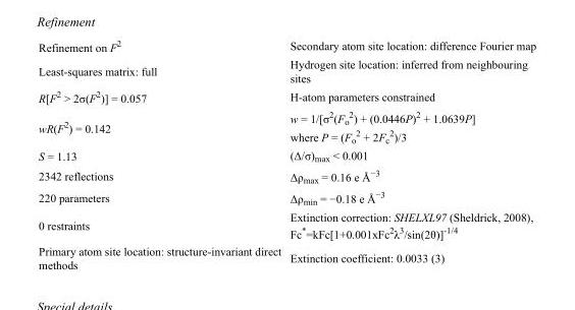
<table><tbody><tr><td>Refinement on F<sup>2</sup></td><td>Secondary atom site location: difference Fourier map</td></tr><tr><td>Least-squares matrix: full</td><td>Hydrogen site location: inferred from neighbouring sites</td></tr><tr><td>R[F<sup>2</sup> &gt; 2σ(F<sup>2</sup>)] = 0.057</td><td>H-atom parameters constrained</td></tr><tr><td>wR(F<sup>2</sup>) = 0.142</td><td>w = 1/[σ<sup>2</sup>(F<sub>o</sub> <sup>2</sup>) + (0.0446P)<sup>2</sup> + 1.0639P] where P = (F<sub>o</sub> <sup>2</sup> + 2F<sub>c</sub> <sup>2</sup>)/3</td></tr><tr><td>S = 1.13</td><td>(Δ/σ)<sub>max</sub> &lt; 0.001</td></tr><tr><td>2342 reflections</td><td>Δρ<sub>max</sub> = 0.16 e Å<sup>−3</sup></td></tr><tr><td>220 parameters</td><td>Δρ<sub>min</sub> = −0.18 e Å<sup>−3</sup></td></tr><tr><td>0 restraints</td><td>Extinction correction: SHELXL97 (Sheldrick, 2008), Fc*=kFc[1+0.001xFc<sup>2</sup>λ<sup>3</sup>/sin(2θ)]<sup>-1/4</sup></td></tr><tr><td>Primary atom site location: structure-invariant direct methods</td><td>Extinction coefficient: 0.0033 (3)</td></tr></tbody></table>